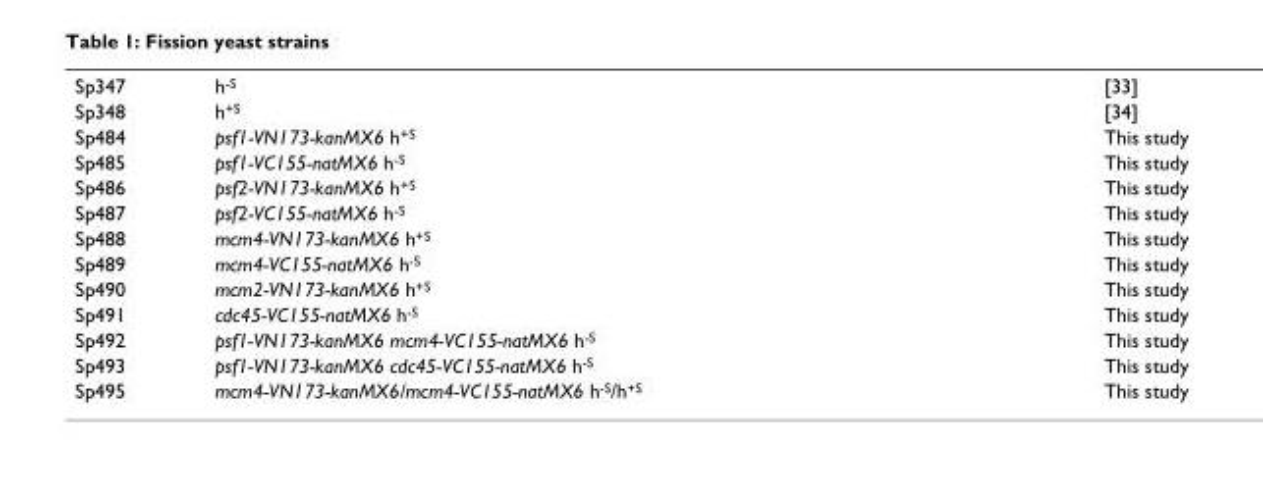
<table><tbody><tr><td>Sp347</td><td>h<sup>-S</sup></td><td>[33]</td></tr><tr><td>Sp348</td><td>h<sup>+S</sup></td><td>[34]</td></tr><tr><td>Sp484</td><td>psf1-VN173-kanMX6 h<sup>+S</sup></td><td>This study</td></tr><tr><td>Sp485</td><td>psf1-VC155-natMX6 h<sup>-S</sup></td><td>This study</td></tr><tr><td>Sp486</td><td>psf2-VN173-kanMX6 h<sup>+S</sup></td><td>This study</td></tr><tr><td>Sp487</td><td>psf2-VC155-natMX6 h<sup>-S</sup></td><td>This study</td></tr><tr><td>Sp488</td><td>mcm4-VN173-kanMX6 h<sup>+S</sup></td><td>This study</td></tr><tr><td>Sp489</td><td>mcm4-VC155-natMX6 h<sup>-S</sup></td><td>This study</td></tr><tr><td>Sp490</td><td>mcm2-VN173-kanMX6 h<sup>+S</sup></td><td>This study</td></tr><tr><td>Sp491</td><td>cdc45-VC155-natMX6 h<sup>-S</sup></td><td>This study</td></tr><tr><td>Sp492</td><td>psf1-VN173-kanMX6 mcm4-VC155-natMX6 h<sup>-S</sup></td><td>This study</td></tr><tr><td>Sp493</td><td>psf1-VN173-kanMX6 cdc45-VC155-natMX6 h<sup>-S</sup></td><td>This study</td></tr><tr><td>Sp495</td><td>mcm4-VN173-kanMX6/mcm4-VC155-natMX6 h<sup>-S</sup>/h<sup>+S</sup></td><td>This study</td></tr></tbody></table>